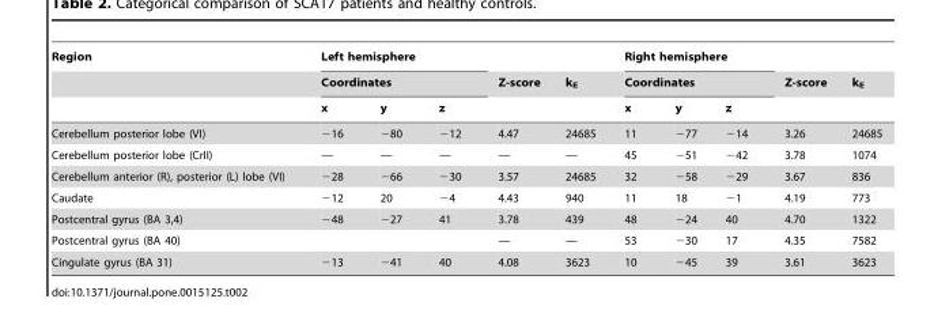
<table><thead><tr><td rowspan="3">Region</td><td rowspan="2" colspan="3">Left hemisphere Coordinates</td><td rowspan="3">Z-score</td><td rowspan="3">k<sub>E</sub></td><td rowspan="2" colspan="3">Right hemisphere Coordinates</td><td rowspan="3">Z-score</td><td rowspan="3">k<sub>E</sub></td></tr><tr></tr><tr><td>x</td><td>y</td><td>z</td><td>x</td><td>y</td><td>z</td></tr></thead><tbody><tr><td>Cerebellum posterior lobe (VI)</td><td>−16</td><td>−80</td><td>−12</td><td>4.47</td><td>24685</td><td>11</td><td>−77</td><td>−14</td><td>3.26</td><td>24685</td></tr><tr><td>Cerebellum posterior lobe (CrII)</td><td>—</td><td>—</td><td>—</td><td>—</td><td>—</td><td>45</td><td>−51</td><td>−42</td><td>3.78</td><td>1074</td></tr><tr><td>Cerebellum anterior (R), posterior (L) lobe (VI)</td><td>−28</td><td>−66</td><td>−30</td><td>3.57</td><td>24685</td><td>32</td><td>−58</td><td>−29</td><td>3.67</td><td>836</td></tr><tr><td>Caudate</td><td>−12</td><td>20</td><td>−4</td><td>4.43</td><td>940</td><td>11</td><td>18</td><td>−1</td><td>4.19</td><td>773</td></tr><tr><td>Postcentral gyrus (BA 3,4)</td><td>−48</td><td>−27</td><td>41</td><td>3.78</td><td>439</td><td>48</td><td>−24</td><td>40</td><td>4.70</td><td>1322</td></tr><tr><td>Postcentral gyrus (BA 40)</td><td></td><td></td><td></td><td>—</td><td>—</td><td>53</td><td>−30</td><td>17</td><td>4.35</td><td>7582</td></tr><tr><td>Cingulate gyrus (BA 31)</td><td>−13</td><td>−41</td><td>40</td><td>4.08</td><td>3623</td><td>10</td><td>−45</td><td>39</td><td>3.61</td><td>3623</td></tr></tbody></table>